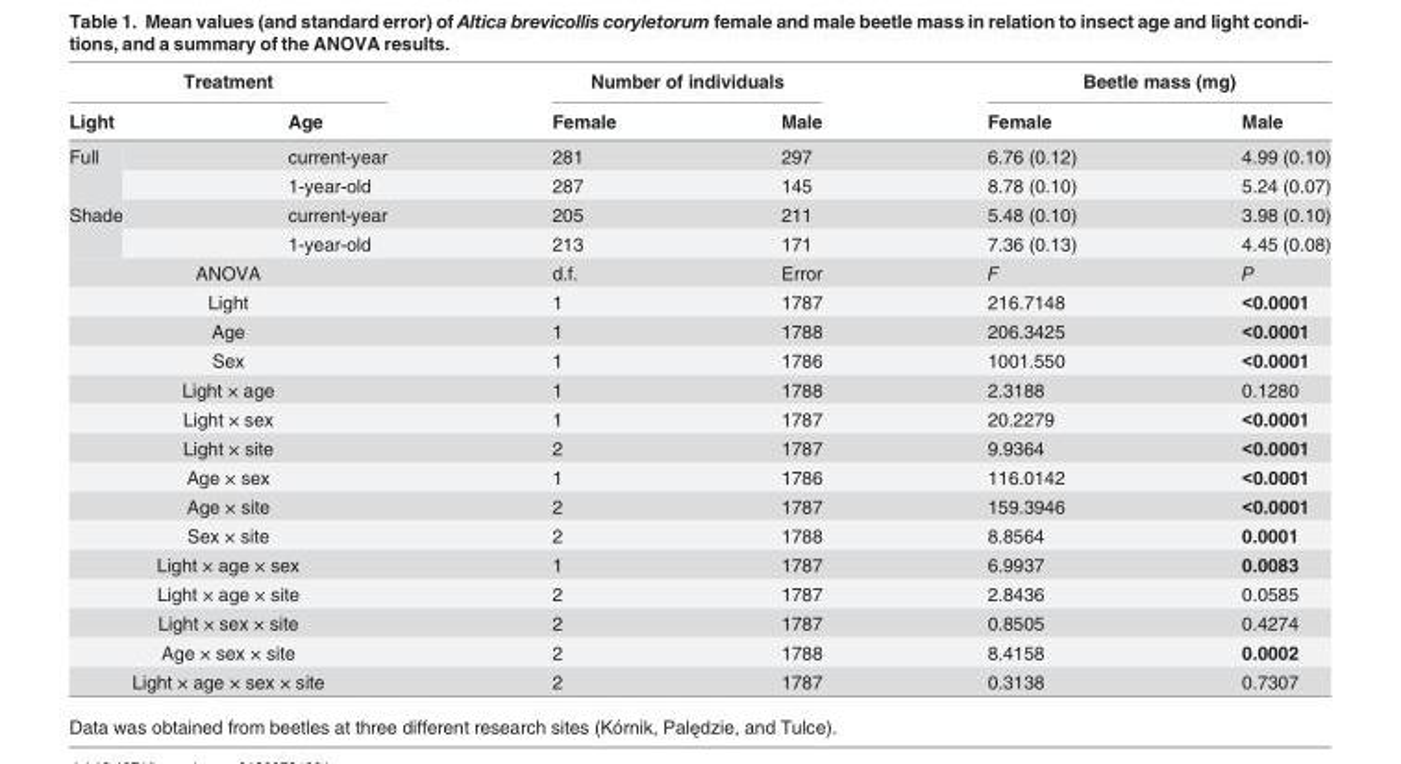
<table><thead><tr><td colspan="2">Treatment</td><td colspan="2">Number of individuals</td><td colspan="2">Beetle mass (mg)</td></tr><tr><td>Light</td><td>Age</td><td>Female</td><td>Male</td><td>Female</td><td>Male</td></tr></thead><tbody><tr><td rowspan="2">Full</td><td>current-year</td><td>281</td><td>297</td><td>6.76 (0.12)</td><td>4.99 (0.10)</td></tr><tr><td>1-year-old</td><td>287</td><td>145</td><td>8.78 (0.10)</td><td>5.24 (0.07)</td></tr><tr><td rowspan="2">Shade</td><td>current-year</td><td>205</td><td>211</td><td>5.48 (0.10)</td><td>3.98 (0.10)</td></tr><tr><td>1-year-old</td><td>213</td><td>171</td><td>7.36 (0.13)</td><td>4.45 (0.08)</td></tr><tr><td colspan="2">ANOVA</td><td>d.f.</td><td>Error</td><td>F</td><td>P</td></tr><tr><td colspan="2">Light</td><td>1</td><td>1787</td><td>216.7148</td><td>&lt;0.0001</td></tr><tr><td colspan="2">Age</td><td>1</td><td>1788</td><td>206.3425</td><td>&lt;0.0001</td></tr><tr><td colspan="2">Sex</td><td>1</td><td>1786</td><td>1001.550</td><td>&lt;0.0001</td></tr><tr><td colspan="2">Light × age</td><td>1</td><td>1788</td><td>2.3188</td><td>0.1280</td></tr><tr><td colspan="2">Light × sex</td><td>1</td><td>1787</td><td>20.2279</td><td>&lt;0.0001</td></tr><tr><td colspan="2">Light × site</td><td>2</td><td>1787</td><td>9.9364</td><td>&lt;0.0001</td></tr><tr><td colspan="2">Age × sex</td><td>1</td><td>1786</td><td>116.0142</td><td>&lt;0.0001</td></tr><tr><td colspan="2">Age × site</td><td>2</td><td>1787</td><td>159.3946</td><td>&lt;0.0001</td></tr><tr><td colspan="2">Sex × site</td><td>2</td><td>1788</td><td>8.8564</td><td>0.0001</td></tr><tr><td colspan="2">Light × age × sex</td><td>1</td><td>1787</td><td>6.9937</td><td>0.0083</td></tr><tr><td colspan="2">Light × age × site</td><td>2</td><td>1787</td><td>2.8436</td><td>0.0585</td></tr><tr><td colspan="2">Light × sex × site</td><td>2</td><td>1787</td><td>0.8505</td><td>0.4274</td></tr><tr><td colspan="2">Age × sex × site</td><td>2</td><td>1788</td><td>8.4158</td><td>0.0002</td></tr><tr><td colspan="2">Light × age × sex × site</td><td>2</td><td>1787</td><td>0.3138</td><td>0.7307</td></tr></tbody></table>